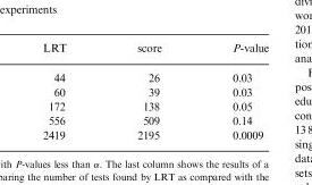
<table><thead><tr><td>LRT</td><td>score</td><td>P-value</td></tr></thead><tbody><tr><td>44</td><td>26</td><td>0.03</td></tr><tr><td>60</td><td>39</td><td>0.03</td></tr><tr><td>172</td><td>138</td><td>0.05</td></tr><tr><td>556</td><td>509</td><td>0.14</td></tr><tr><td>2419</td><td>2195</td><td>0.0009</td></tr></tbody></table>